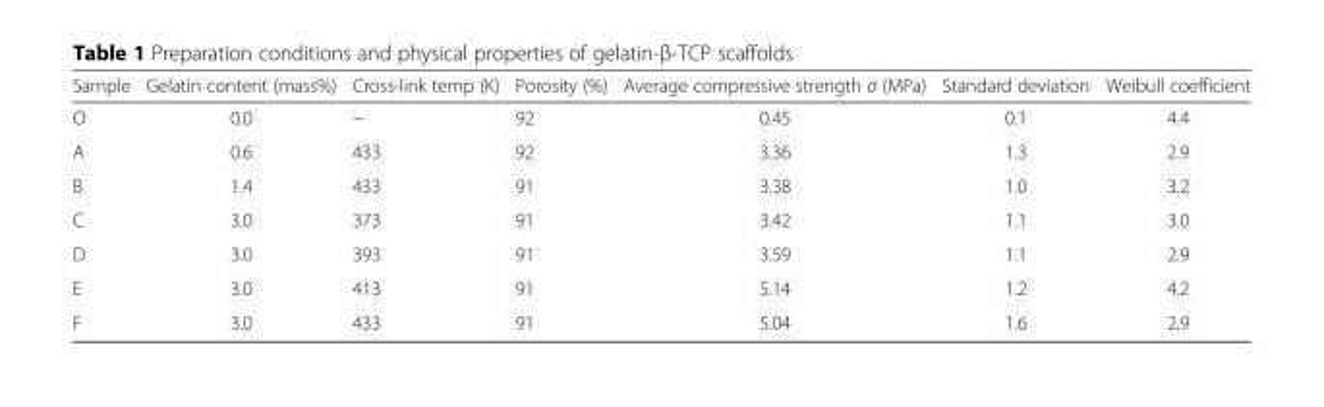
<table><thead><tr><td>Sample</td><td>Gelatin content (mass%)</td><td>Cross-link temp (K)</td><td>Porosity (%)</td><td>Average compressive strength σ (MPa)</td><td>Standard deviation</td><td>Weibull coefficient</td></tr></thead><tbody><tr><td>O</td><td>0.0</td><td>−</td><td>92</td><td>0.45</td><td>0.1</td><td>4.4</td></tr><tr><td>A</td><td>0.6</td><td>433</td><td>92</td><td>3.36</td><td>1.3</td><td>2.9</td></tr><tr><td>B</td><td>1.4</td><td>433</td><td>91</td><td>3.38</td><td>1.0</td><td>3.2</td></tr><tr><td>C</td><td>3.0</td><td>373</td><td>91</td><td>3.42</td><td>1.1</td><td>3.0</td></tr><tr><td>D</td><td>3.0</td><td>393</td><td>91</td><td>3.59</td><td>1.1</td><td>2.9</td></tr><tr><td>E</td><td>3.0</td><td>413</td><td>91</td><td>5.14</td><td>1.2</td><td>4.2</td></tr><tr><td>F</td><td>3.0</td><td>433</td><td>91</td><td>5.04</td><td>1.6</td><td>2.9</td></tr></tbody></table>